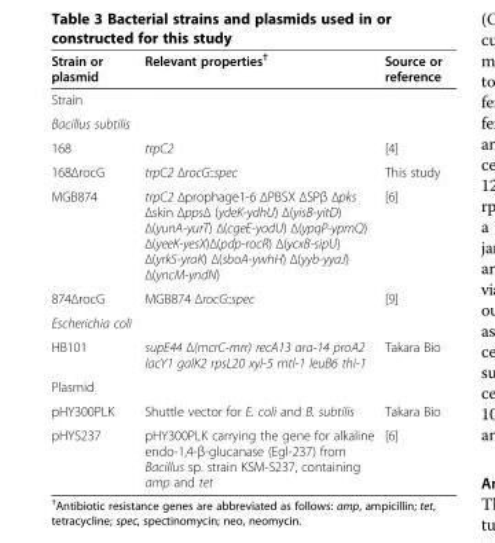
<table><thead><tr><td>Strain or plasmid</td><td>Relevant properties<sup>†</sup></td><td>Source or reference</td></tr></thead><tbody><tr><td colspan="3">Strain</td></tr><tr><td colspan="3">Bacillus subtilis</td></tr><tr><td>168</td><td>trpC2</td><td>[4]</td></tr><tr><td>168ΔrocG</td><td>trpC2 ΔrocG::spec</td><td>This study</td></tr><tr><td>MGB874</td><td>trpC2 Δprophage1-6 ΔPBSX ΔSPβ Δpks Δskin ΔppsΔ (ydeK-ydhU) Δ(yisB-yitD) Δ(yunA-yurT) Δ(cgeE-yodU) Δ(ypqP-ypmQ) Δ(yeeK-yesX)Δ(pdp-rocR) Δ(ycxB-sipU) Δ(yrkS-yraK) Δ(sboA-ywhH) Δ(yyb-yyaJ) Δ(yncM-yndN)</td><td>[6]</td></tr><tr><td>874ΔrocG</td><td>MGB874 ΔrocG::spec</td><td>[9]</td></tr><tr><td colspan="3">Escherichia coli</td></tr><tr><td>HB101</td><td>supE44 Δ(mcrC-mrr) recA13 ara-14 proA2 lacY1 galK2 rpsL20 xyl-5 mtl-1 leuB6 thi-1</td><td>Takara Bio</td></tr><tr><td colspan="3">Plasmid</td></tr><tr><td>pHY300PLK</td><td>Shuttle vector for E. coli and B. subtilis</td><td>Takara Bio</td></tr><tr><td>pHYS237</td><td>pHY300PLK carrying the gene for alkaline endo-1,4-β-glucanase (Egl-237) from Bacillus sp. strain KSM-S237, containing amp and tet</td><td>[6]</td></tr></tbody></table>